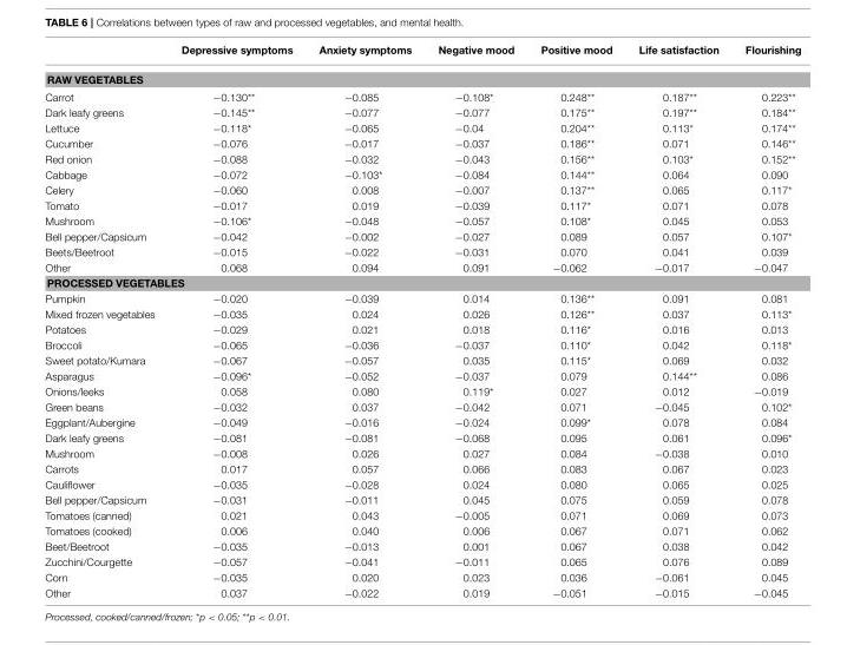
<table><thead><tr><td></td><td>Depressive symptoms</td><td>Anxiety symptoms</td><td>Negative mood</td><td>Positive mood</td><td>Life satisfaction</td><td>Flourishing</td></tr></thead><tbody><tr><td colspan="7">RAW VEGETABLES</td></tr><tr><td>Carrot</td><td>−0.130**</td><td>−0.085</td><td>−0.108*</td><td>0.248**</td><td>0.187**</td><td>0.223**</td></tr><tr><td>Dark leafy greens</td><td>−0.145**</td><td>−0.077</td><td>−0.077</td><td>0.175**</td><td>0.197**</td><td>0.184**</td></tr><tr><td>Lettuce</td><td>−0.118*</td><td>−0.065</td><td>−0.04</td><td>0.204**</td><td>0.113*</td><td>0.174**</td></tr><tr><td>Cucumber</td><td>−0.076</td><td>−0.017</td><td>−0.037</td><td>0.186**</td><td>0.071</td><td>0.146**</td></tr><tr><td>Red onion</td><td>−0.088</td><td>−0.032</td><td>−0.043</td><td>0.156**</td><td>0.103*</td><td>0.152**</td></tr><tr><td>Cabbage</td><td>−0.072</td><td>−0.103*</td><td>−0.084</td><td>0.144**</td><td>0.064</td><td>0.090</td></tr><tr><td>Celery</td><td>−0.060</td><td>0.008</td><td>−0.007</td><td>0.137**</td><td>0.065</td><td>0.117*</td></tr><tr><td>Tomato</td><td>−0.017</td><td>0.019</td><td>−0.039</td><td>0.117*</td><td>0.071</td><td>0.078</td></tr><tr><td>Mushroom</td><td>−0.106*</td><td>−0.048</td><td>−0.057</td><td>0.108*</td><td>0.045</td><td>0.053</td></tr><tr><td>Bell pepper/Capsicum</td><td>−0.042</td><td>−0.002</td><td>−0.027</td><td>0.089</td><td>0.057</td><td>0.107*</td></tr><tr><td>Beets/Beetroot</td><td>−0.015</td><td>−0.022</td><td>−0.031</td><td>0.070</td><td>0.041</td><td>0.039</td></tr><tr><td>Other</td><td>0.068</td><td>0.094</td><td>0.091</td><td>−0.062</td><td>−0.017</td><td>−0.047</td></tr><tr><td colspan="7">PROCESSED VEGETABLES</td></tr><tr><td>Pumpkin</td><td>−0.020</td><td>−0.039</td><td>0.014</td><td>0.136**</td><td>0.091</td><td>0.081</td></tr><tr><td>Mixed frozen vegetables</td><td>−0.035</td><td>0.024</td><td>0.026</td><td>0.126**</td><td>0.037</td><td>0.113*</td></tr><tr><td>Potatoes</td><td>−0.029</td><td>0.021</td><td>0.018</td><td>0.116*</td><td>0.016</td><td>0.013</td></tr><tr><td>Broccoli</td><td>−0.065</td><td>−0.036</td><td>−0.037</td><td>0.110*</td><td>0.042</td><td>0.118*</td></tr><tr><td>Sweet potato/Kumara</td><td>−0.067</td><td>−0.057</td><td>0.035</td><td>0.115*</td><td>0.069</td><td>0.032</td></tr><tr><td>Asparagus</td><td>−0.096*</td><td>−0.052</td><td>−0.037</td><td>0.079</td><td>0.144**</td><td>0.086</td></tr><tr><td>Onions/leeks</td><td>0.058</td><td>0.080</td><td>0.119*</td><td>0.027</td><td>0.012</td><td>−0.019</td></tr><tr><td>Green beans</td><td>−0.032</td><td>0.037</td><td>−0.042</td><td>0.071</td><td>−0.045</td><td>0.102*</td></tr><tr><td>Eggplant/Aubergine</td><td>−0.049</td><td>−0.016</td><td>−0.024</td><td>0.099*</td><td>0.078</td><td>0.084</td></tr><tr><td>Dark leafy greens</td><td>−0.081</td><td>−0.081</td><td>−0.068</td><td>0.095</td><td>0.061</td><td>0.096*</td></tr><tr><td>Mushroom</td><td>−0.008</td><td>0.026</td><td>0.027</td><td>0.084</td><td>−0.038</td><td>0.010</td></tr><tr><td>Carrots</td><td>0.017</td><td>0.057</td><td>0.066</td><td>0.083</td><td>0.067</td><td>0.023</td></tr><tr><td>Cauliflower</td><td>−0.035</td><td>−0.028</td><td>0.024</td><td>0.080</td><td>0.065</td><td>0.025</td></tr><tr><td>Bell pepper/Capsicum</td><td>−0.031</td><td>−0.011</td><td>0.045</td><td>0.075</td><td>0.059</td><td>0.078</td></tr><tr><td>Tomatoes (canned)</td><td>0.021</td><td>0.043</td><td>−0.005</td><td>0.071</td><td>0.069</td><td>0.073</td></tr><tr><td>Tomatoes (cooked)</td><td>0.006</td><td>0.040</td><td>0.006</td><td>0.067</td><td>0.071</td><td>0.062</td></tr><tr><td>Beet/Beetroot</td><td>−0.035</td><td>−0.013</td><td>0.001</td><td>0.067</td><td>0.038</td><td>0.042</td></tr><tr><td>Zucchini/Courgette</td><td>−0.057</td><td>−0.041</td><td>−0.011</td><td>0.065</td><td>0.076</td><td>0.089</td></tr><tr><td>Corn</td><td>−0.035</td><td>0.020</td><td>0.023</td><td>0.036</td><td>−0.061</td><td>0.045</td></tr><tr><td>Other</td><td>0.037</td><td>−0.022</td><td>0.019</td><td>−0.051</td><td>−0.015</td><td>−0.045</td></tr></tbody></table>